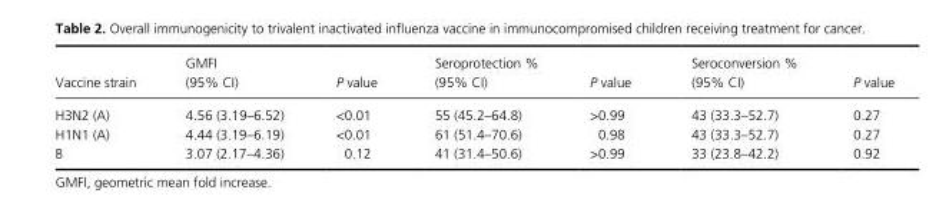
<table><thead><tr><td>Vaccine strain</td><td>GMFI (95% CI)</td><td>P value</td><td>Seroprotection % (95% CI)</td><td>P value</td><td>Seroconversion % (95% CI)</td><td>P value</td></tr></thead><tbody><tr><td>H3N2 (A)</td><td>4.56 (3.19–6.52)</td><td>&lt;0.01</td><td>55 (45.2–64.8)</td><td>&gt;0.99</td><td>43 (33.3–52.7)</td><td>0.27</td></tr><tr><td>H1N1 (A)</td><td>4.44 (3.19–6.19)</td><td>&lt;0.01</td><td>61 (51.4–70.6)</td><td>0.98</td><td>43 (33.3–52.7)</td><td>0.27</td></tr><tr><td>B</td><td>3.07 (2.17–4.36)</td><td>0.12</td><td>41 (31.4–50.6)</td><td>&gt;0.99</td><td>33 (23.8–42.2)</td><td>0.92</td></tr></tbody></table>